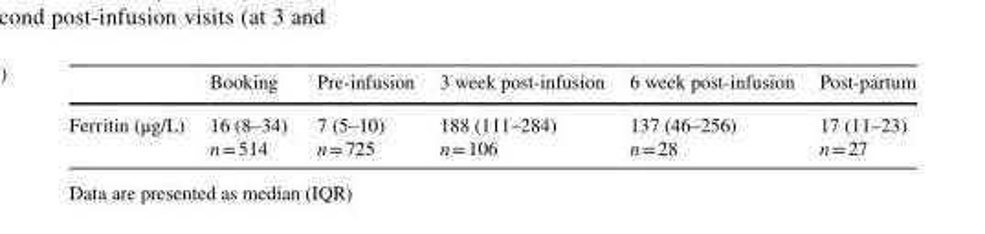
<table><thead><tr><td></td><td>Booking</td><td>Pre-infusion</td><td>3 week post-infusion</td><td>6 week post-infusion</td><td>Post-partum</td></tr></thead><tbody><tr><td>Ferritin (μg/L)</td><td>16 (8–34) n = 514</td><td>7 (5–10) n = 725</td><td>188 (111–284) n = 106</td><td>137 (46–256) n = 28</td><td>17 (11–23) n = 27</td></tr></tbody></table>